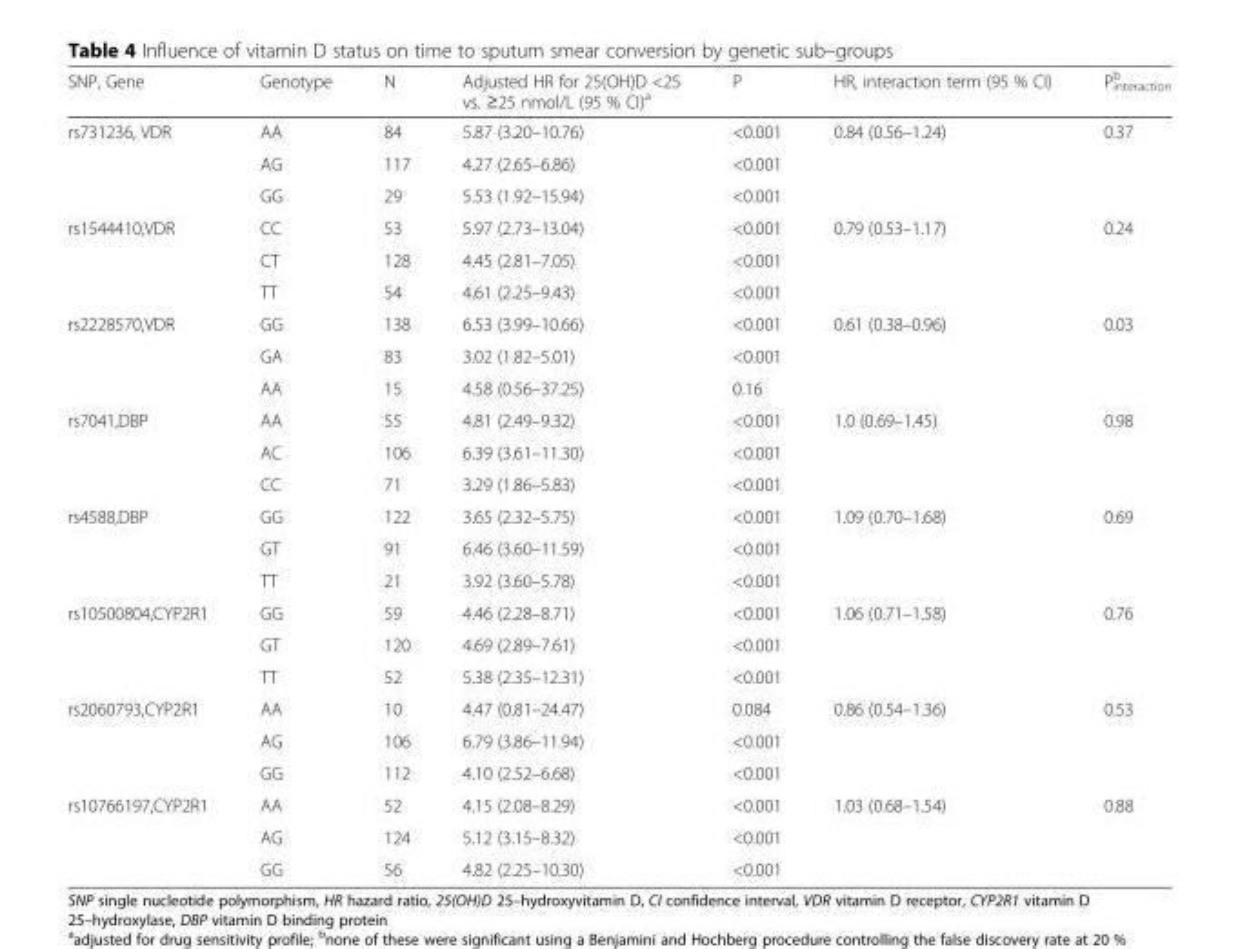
<table><thead><tr><td>SNP, Gene</td><td>Genotype</td><td>N</td><td>Adjusted HR for 25(OH)D &lt;25 vs. ≥25 nmol/L (95 % CI)<sup>a</sup></td><td>P</td><td>HR, interaction term (95 % CI)</td><td>P<sub>interaction</sub> <sup>b</sup></td></tr></thead><tbody><tr><td rowspan="3">rs731236, VDR</td><td>AA</td><td>84</td><td>5.87 (3.20–10.76)</td><td>&lt;0.001</td><td rowspan="3">0.84 (0.56–1.24)</td><td rowspan="3">0.37</td></tr><tr><td>AG</td><td>117</td><td>4.27 (2.65–6.86)</td><td>&lt;0.001</td></tr><tr><td>GG</td><td>29</td><td>5.53 (1.92–15.94)</td><td>&lt;0.001</td></tr><tr><td rowspan="3">rs1544410,VDR</td><td>CC</td><td>53</td><td>5.97 (2.73–13.04)</td><td>&lt;0.001</td><td rowspan="3">0.79 (0.53–1.17)</td><td rowspan="3">0.24</td></tr><tr><td>CT</td><td>128</td><td>4.45 (2.81–7.05)</td><td>&lt;0.001</td></tr><tr><td>TT</td><td>54</td><td>4.61 (2.25–9.43)</td><td>&lt;0.001</td></tr><tr><td rowspan="3">rs2228570,VDR</td><td>GG</td><td>138</td><td>6.53 (3.99–10.66)</td><td>&lt;0.001</td><td rowspan="3">0.61 (0.38–0.96)</td><td rowspan="3">0.03</td></tr><tr><td>GA</td><td>83</td><td>3.02 (1.82–5.01)</td><td>&lt;0.001</td></tr><tr><td>AA</td><td>15</td><td>4.58 (0.56–37.25)</td><td>0.16</td></tr><tr><td rowspan="3">rs7041,DBP</td><td>AA</td><td>55</td><td>4.81 (2.49–9.32)</td><td>&lt;0.001</td><td rowspan="3">1.0 (0.69–1.45)</td><td rowspan="3">0.98</td></tr><tr><td>AC</td><td>106</td><td>6.39 (3.61–11.30)</td><td>&lt;0.001</td></tr><tr><td>CC</td><td>71</td><td>3.29 (1.86–5.83)</td><td>&lt;0.001</td></tr><tr><td rowspan="3">rs4588,DBP</td><td>GG</td><td>122</td><td>3.65 (2.32–5.75)</td><td>&lt;0.001</td><td rowspan="3">1.09 (0.70–1.68)</td><td rowspan="3">0.69</td></tr><tr><td>GT</td><td>91</td><td>6.46 (3.60–11.59)</td><td>&lt;0.001</td></tr><tr><td>TT</td><td>21</td><td>3.92 (3.60–5.78)</td><td>&lt;0.001</td></tr><tr><td rowspan="3">rs10500804,CYP2R1</td><td>GG</td><td>59</td><td>4.46 (2.28–8.71)</td><td>&lt;0.001</td><td rowspan="3">1.06 (0.71–1.58)</td><td rowspan="3">0.76</td></tr><tr><td>GT</td><td>120</td><td>4.69 (2.89–7.61)</td><td>&lt;0.001</td></tr><tr><td>TT</td><td>52</td><td>5.38 (2.35–12.31)</td><td>&lt;0.001</td></tr><tr><td rowspan="3">rs2060793,CYP2R1</td><td>AA</td><td>10</td><td>4.47 (0.81–24.47)</td><td>0.084</td><td rowspan="3">0.86 (0.54–1.36)</td><td rowspan="3">0.53</td></tr><tr><td>AG</td><td>106</td><td>6.79 (3.86–11.94)</td><td>&lt;0.001</td></tr><tr><td>GG</td><td>112</td><td>4.10 (2.52–6.68)</td><td>&lt;0.001</td></tr><tr><td rowspan="3">rs10766197,CYP2R1</td><td>AA</td><td>52</td><td>4.15 (2.08–8.29)</td><td>&lt;0.001</td><td rowspan="3">1.03 (0.68–1.54)</td><td rowspan="3">0.88</td></tr><tr><td>AG</td><td>124</td><td>5.12 (3.15–8.32)</td><td>&lt;0.001</td></tr><tr><td>GG</td><td>56</td><td>4.82 (2.25–10.30)</td><td>&lt;0.001</td></tr></tbody></table>